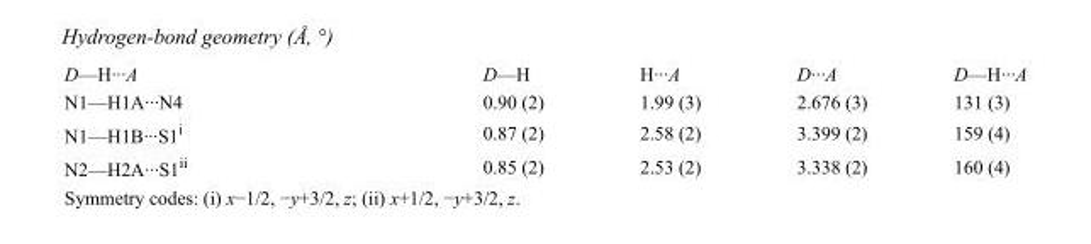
<table><tbody><tr><td>D—H···A</td><td>D—H</td><td>H···A</td><td>D···A</td><td>D—H···A</td></tr><tr><td>N1—H1A···N4</td><td>0.90 (2)</td><td>1.99 (3)</td><td>2.676 (3)</td><td>131 (3)</td></tr><tr><td>N1—H1B···S1<sup>i</sup></td><td>0.87 (2)</td><td>2.58 (2)</td><td>3.399 (2)</td><td>159 (4)</td></tr><tr><td>N2—H2A···S1<sup>ii</sup></td><td>0.85 (2)</td><td>2.53 (2)</td><td>3.338 (2)</td><td>160 (4)</td></tr></tbody></table>